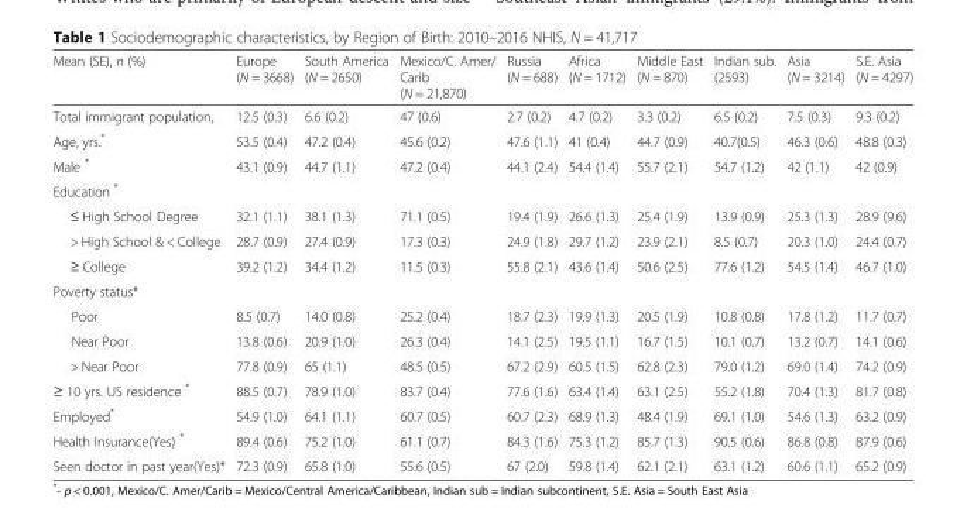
<table><thead><tr><td>Mean (SE), n (%)</td><td>Europe (N = 3668)</td><td>South America (N = 2650)</td><td>Mexico/C. Amer/ Carib (N = 21,870)</td><td>Russia (N = 688)</td><td>Africa (N = 1712)</td><td>Middle East (N = 870)</td><td>Indian sub. (2593)</td><td>Asia (N = 3214)</td><td>S.E. Asia (N = 4297)</td></tr></thead><tbody><tr><td>Total immigrant population,</td><td>12.5 (0.3)</td><td>6.6 (0.2)</td><td>47 (0.6)</td><td>2.7 (0.2)</td><td>4.7 (0.2)</td><td>3.3 (0.2)</td><td>6.5 (0.2)</td><td>7.5 (0.3)</td><td>9.3 (0.2)</td></tr><tr><td>Age, yrs.*</td><td>53.5 (0.4)</td><td>47.2 (0.4)</td><td>45.6 (0.2)</td><td>47.6 (1.1)</td><td>41 (0.4)</td><td>44.7 (0.9)</td><td>40.7(0.5)</td><td>46.3 (0.6)</td><td>48.8 (0.3)</td></tr><tr><td>Male *</td><td>43.1 (0.9)</td><td>44.7 (1.1)</td><td>47.2 (0.4)</td><td>44.1 (2.4)</td><td>54.4 (1.4)</td><td>55.7 (2.1)</td><td>54.7 (1.2)</td><td>42 (1.1)</td><td>42 (0.9)</td></tr><tr><td colspan="10">Education *</td></tr><tr><td>≤ High School Degree</td><td>32.1 (1.1)</td><td>38.1 (1.3)</td><td>71.1 (0.5)</td><td>19.4 (1.9)</td><td>26.6 (1.3)</td><td>25.4 (1.9)</td><td>13.9 (0.9)</td><td>25.3 (1.3)</td><td>28.9 (9.6)</td></tr><tr><td>&gt; High School &amp; &lt; College</td><td>28.7 (0.9)</td><td>27.4 (0.9)</td><td>17.3 (0.3)</td><td>24.9 (1.8)</td><td>29.7 (1.2)</td><td>23.9 (2.1)</td><td>8.5 (0.7)</td><td>20.3 (1.0)</td><td>24.4 (0.7)</td></tr><tr><td>≥ College</td><td>39.2 (1.2)</td><td>34.4 (1.2)</td><td>11.5 (0.3)</td><td>55.8 (2.1)</td><td>43.6 (1.4)</td><td>50.6 (2.5)</td><td>77.6 (1.2)</td><td>54.5 (1.4)</td><td>46.7 (1.0)</td></tr><tr><td colspan="10">Poverty status*</td></tr><tr><td>Poor</td><td>8.5 (0.7)</td><td>14.0 (0.8)</td><td>25.2 (0.4)</td><td>18.7 (2.3)</td><td>19.9 (1.3)</td><td>20.5 (1.9)</td><td>10.8 (0.8)</td><td>17.8 (1.2)</td><td>11.7 (0.7)</td></tr><tr><td>Near Poor</td><td>13.8 (0.6)</td><td>20.9 (1.0)</td><td>26.3 (0.4)</td><td>14.1 (2.5)</td><td>19.5 (1.1)</td><td>16.7 (1.5)</td><td>10.1 (0.7)</td><td>13.2 (0.7)</td><td>14.1 (0.6)</td></tr><tr><td>&gt; Near Poor</td><td>77.8 (0.9)</td><td>65 (1.1)</td><td>48.5 (0.5)</td><td>67.2 (2.9)</td><td>60.5 (1.5)</td><td>62.8 (2.3)</td><td>79.0 (1.2)</td><td>69.0 (1.4)</td><td>74.2 (0.9)</td></tr><tr><td>≥ 10 yrs. US residence *</td><td>88.5 (0.7)</td><td>78.9 (1.0)</td><td>83.7 (0.4)</td><td>77.6 (1.6)</td><td>63.4 (1.4)</td><td>63.1 (2.5)</td><td>55.2 (1.8)</td><td>70.4 (1.3)</td><td>81.7 (0.8)</td></tr><tr><td>Employed*</td><td>54.9 (1.0)</td><td>64.1 (1.1)</td><td>60.7 (0.5)</td><td>60.7 (2.3)</td><td>68.9 (1.3)</td><td>48.4 (1.9)</td><td>69.1 (1.0)</td><td>54.6 (1.3)</td><td>63.2 (0.9)</td></tr><tr><td>Health Insurance(Yes) *</td><td>89.4 (0.6)</td><td>75.2 (1.0)</td><td>61.1 (0.7)</td><td>84.3 (1.6)</td><td>75.3 (1.2)</td><td>85.7 (1.3)</td><td>90.5 (0.6)</td><td>86.8 (0.8)</td><td>87.9 (0.6)</td></tr><tr><td>Seen doctor in past year(Yes)*</td><td>72.3 (0.9)</td><td>65.8 (1.0)</td><td>55.6 (0.5)</td><td>67 (2.0)</td><td>59.8 (1.4)</td><td>62.1 (2.1)</td><td>63.1 (1.2)</td><td>60.6 (1.1)</td><td>65.2 (0.9)</td></tr></tbody></table>